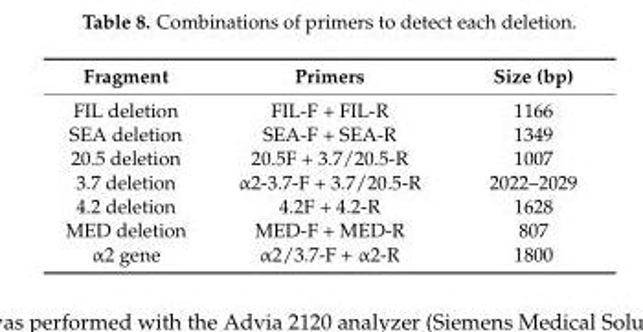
<table><thead><tr><td>Fragment</td><td>Primers</td><td>Size (bp)</td></tr></thead><tbody><tr><td>FIL deletion</td><td>FIL-F + FIL-R</td><td>1166</td></tr><tr><td>SEA deletion</td><td>SEA-F + SEA-R</td><td>1349</td></tr><tr><td>20.5 deletion</td><td>20.5F + 3.7/20.5-R</td><td>1007</td></tr><tr><td>3.7 deletion</td><td>α2-3.7-F + 3.7/20.5-R</td><td>2022–2029</td></tr><tr><td>4.2 deletion</td><td>4.2F + 4.2-R</td><td>1628</td></tr><tr><td>MED deletion</td><td>MED-F + MED-R</td><td>807</td></tr><tr><td>α2 gene</td><td>α2/3.7-F + α2-R</td><td>1800</td></tr></tbody></table>